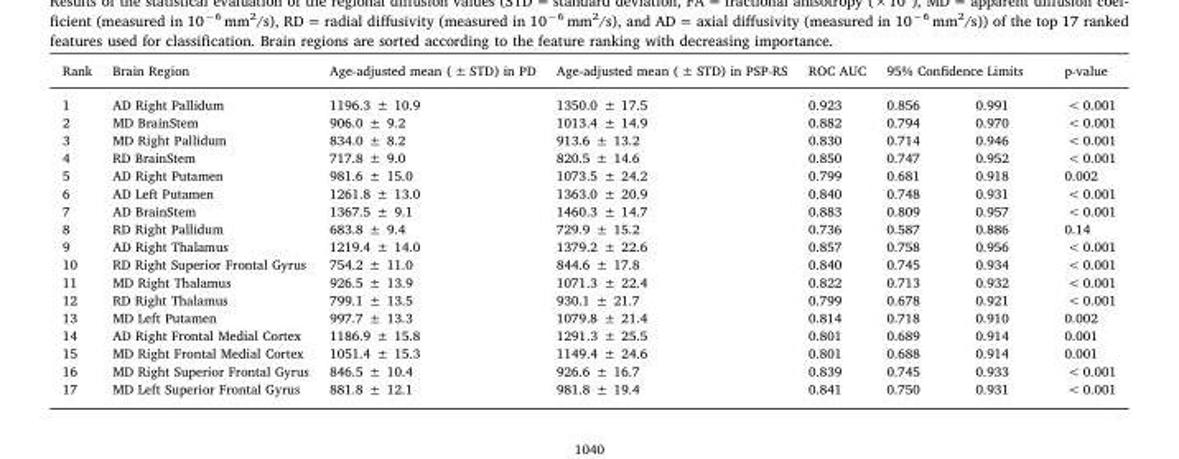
<table><thead><tr><td rowspan="2">Rank 1</td><td rowspan="2">Brain Region AD Right Pallidum</td><td rowspan="2">Age-adjusted mean ( ± STD) in PD 1196.3 ± 10.9</td><td rowspan="2">Age-adjusted mean ( ± STD) in PSP-RS 1350.0 ± 17.5</td><td rowspan="2">ROC AUC 0.923</td><td colspan="2">95% Confidence Limits</td><td rowspan="2">p-value &lt; 0.001</td></tr><tr><td>0.856</td><td>0.991</td></tr></thead><tbody><tr><td>2</td><td>MD BrainStem</td><td>906.0 ± 9.2</td><td>1013.4 ± 14.9</td><td>0.882</td><td>0.794</td><td>0.970</td><td>&lt; 0.001</td></tr><tr><td>3</td><td>MD Right Pallidum</td><td>834.0 ± 8.2</td><td>913.6 ± 13.2</td><td>0.830</td><td>0.714</td><td>0.946</td><td>&lt; 0.001</td></tr><tr><td>4</td><td>RD BrainStem</td><td>717.8 ± 9.0</td><td>820.5 ± 14.6</td><td>0.850</td><td>0.747</td><td>0.952</td><td>&lt; 0.001</td></tr><tr><td>5</td><td>AD Right Putamen</td><td>981.6 ± 15.0</td><td>1073.5 ± 24.2</td><td>0.799</td><td>0.681</td><td>0.918</td><td>0.002</td></tr><tr><td>6</td><td>AD Left Putamen</td><td>1261.8 ± 13.0</td><td>1363.0 ± 20.9</td><td>0.840</td><td>0.748</td><td>0.931</td><td>&lt; 0.001</td></tr><tr><td>7</td><td>AD BrainStem</td><td>1367.5 ± 9.1</td><td>1460.3 ± 14.7</td><td>0.883</td><td>0.809</td><td>0.957</td><td>&lt; 0.001</td></tr><tr><td>8</td><td>RD Right Pallidum</td><td>683.8 ± 9.4</td><td>729.9 ± 15.2</td><td>0.736</td><td>0.587</td><td>0.886</td><td>0.14</td></tr><tr><td>9</td><td>AD Right Thalamus</td><td>1219.4 ± 14.0</td><td>1379.2 ± 22.6</td><td>0.857</td><td>0.758</td><td>0.956</td><td>&lt; 0.001</td></tr><tr><td>10</td><td>RD Right Superior Frontal Gyrus</td><td>754.2 ± 11.0</td><td>844.6 ± 17.8</td><td>0.840</td><td>0.745</td><td>0.934</td><td>&lt; 0.001</td></tr><tr><td>11</td><td>MD Right Thalamus</td><td>926.5 ± 13.9</td><td>1071.3 ± 22.4</td><td>0.822</td><td>0.713</td><td>0.932</td><td>&lt; 0.001</td></tr><tr><td>12</td><td>RD Right Thalamus</td><td>799.1 ± 13.5</td><td>930.1 ± 21.7</td><td>0.799</td><td>0.678</td><td>0.921</td><td>&lt; 0.001</td></tr><tr><td>13</td><td>MD Left Putamen</td><td>997.7 ± 13.3</td><td>1079.8 ± 21.4</td><td>0.814</td><td>0.718</td><td>0.910</td><td>0.002</td></tr><tr><td>14</td><td>AD Right Frontal Medial Cortex</td><td>1186.9 ± 15.8</td><td>1291.3 ± 25.5</td><td>0.801</td><td>0.689</td><td>0.914</td><td>0.001</td></tr><tr><td>15</td><td>MD Right Frontal Medial Cortex</td><td>1051.4 ± 15.3</td><td>1149.4 ± 24.6</td><td>0.801</td><td>0.688</td><td>0.914</td><td>0.001</td></tr><tr><td>16</td><td>MD Right Superior Frontal Gyrus</td><td>846.5 ± 10.4</td><td>926.6 ± 16.7</td><td>0.839</td><td>0.745</td><td>0.933</td><td>&lt; 0.001</td></tr><tr><td>17</td><td>MD Left Superior Frontal Gyrus</td><td>881.8 ± 12.1</td><td>981.8 ± 19.4</td><td>0.841</td><td>0.750</td><td>0.931</td><td>&lt; 0.001</td></tr></tbody></table>